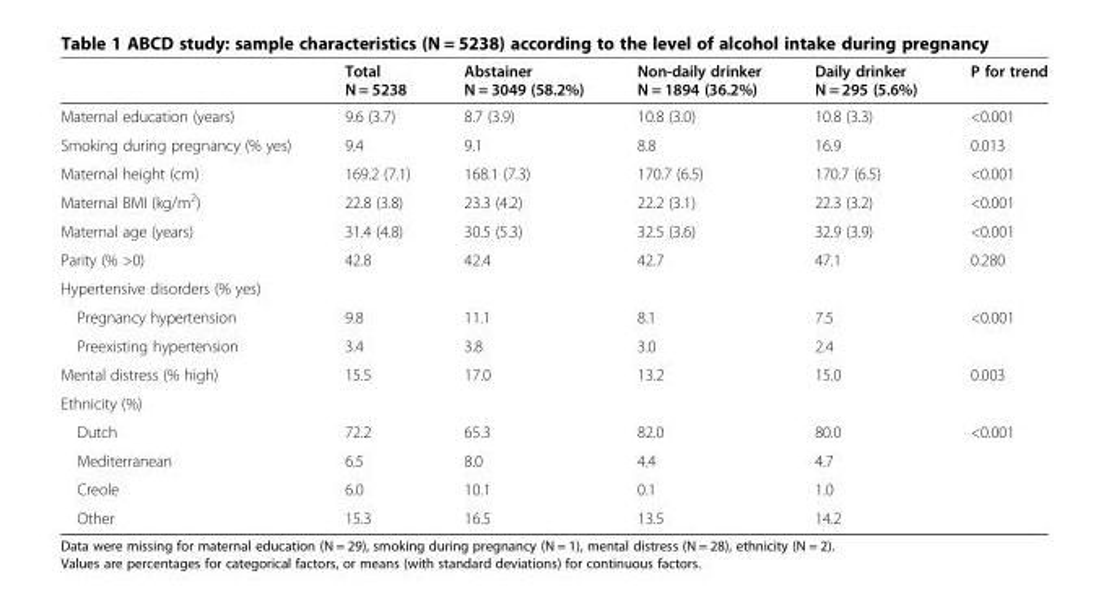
<table><thead><tr><td></td><td>Total N = 5238</td><td>Abstainer N = 3049 (58.2%)</td><td>Non-daily drinker N = 1894 (36.2%)</td><td>Daily drinker N = 295 (5.6%)</td><td>P for trend</td></tr></thead><tbody><tr><td>Maternal education (years)</td><td>9.6 (3.7)</td><td>8.7 (3.9)</td><td>10.8 (3.0)</td><td>10.8 (3.3)</td><td>&lt;0.001</td></tr><tr><td>Smoking during pregnancy (% yes)</td><td>9.4</td><td>9.1</td><td>8.8</td><td>16.9</td><td>0.013</td></tr><tr><td>Maternal height (cm)</td><td>169.2 (7.1)</td><td>168.1 (7.3)</td><td>170.7 (6.5)</td><td>170.7 (6.5)</td><td>&lt;0.001</td></tr><tr><td>Maternal BMI (kg/m<sup>2</sup>)</td><td>22.8 (3.8)</td><td>23.3 (4.2)</td><td>22.2 (3.1)</td><td>22.3 (3.2)</td><td>&lt;0.001</td></tr><tr><td>Maternal age (years)</td><td>31.4 (4.8)</td><td>30.5 (5.3)</td><td>32.5 (3.6)</td><td>32.9 (3.9)</td><td>&lt;0.001</td></tr><tr><td>Parity (% &gt;0)</td><td>42.8</td><td>42.4</td><td>42.7</td><td>47.1</td><td>0.280</td></tr><tr><td colspan="6">Hypertensive disorders (% yes)</td></tr><tr><td>Pregnancy hypertension</td><td>9.8</td><td>11.1</td><td>8.1</td><td>7.5</td><td rowspan="2">&lt;0.001</td></tr><tr><td>Preexisting hypertension</td><td>3.4</td><td>3.8</td><td>3.0</td><td>2.4</td></tr><tr><td>Mental distress (% high)</td><td>15.5</td><td>17.0</td><td>13.2</td><td>15.0</td><td>0.003</td></tr><tr><td colspan="6">Ethnicity (%)</td></tr><tr><td>Dutch</td><td>72.2</td><td>65.3</td><td>82.0</td><td>80.0</td><td rowspan="4">&lt;0.001</td></tr><tr><td>Mediterranean</td><td>6.5</td><td>8.0</td><td>4.4</td><td>4.7</td></tr><tr><td>Creole</td><td>6.0</td><td>10.1</td><td>0.1</td><td>1.0</td></tr><tr><td>Other</td><td>15.3</td><td>16.5</td><td>13.5</td><td>14.2</td></tr></tbody></table>